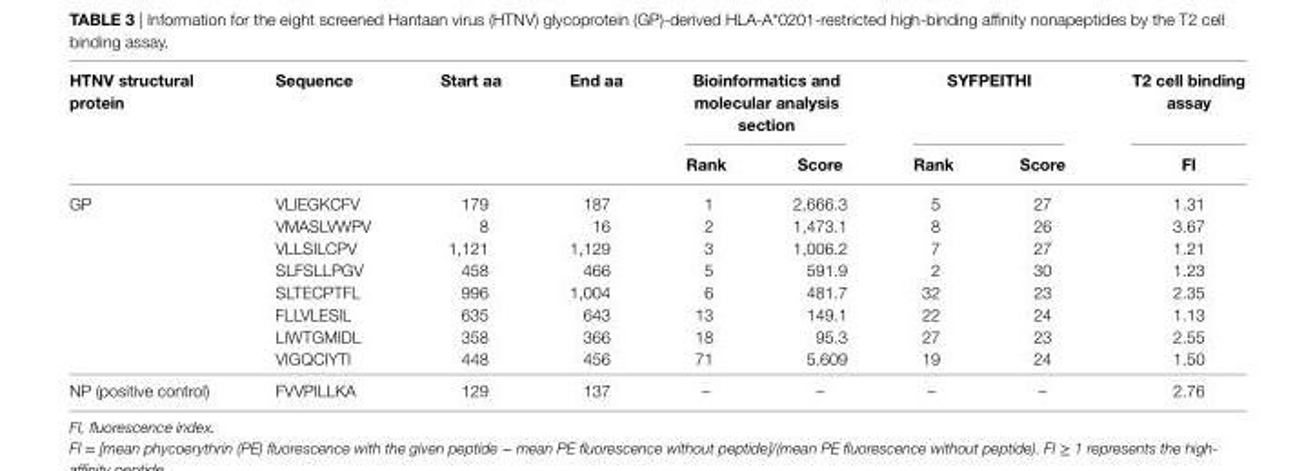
<table><thead><tr><td rowspan="2">hTnV structural protein</td><td rowspan="2">sequence</td><td rowspan="2">start aa</td><td rowspan="2">end aa</td><td colspan="2">bioinformatics and molecular analysis section</td><td colspan="2">sYFPeiThi</td><td rowspan="2">T2 cell binding assay Fi</td></tr><tr><td>rank</td><td>score</td><td>rank</td><td>score</td></tr></thead><tbody><tr><td rowspan="8">GP</td><td>VLIEGKCFV</td><td>179</td><td>187</td><td>1</td><td>2,666.3</td><td>5</td><td>27</td><td>1.31</td></tr><tr><td>VMASLVWPV</td><td>8</td><td>16</td><td>2</td><td>1,473.1</td><td>8</td><td>26</td><td>3.67</td></tr><tr><td>VLLSILCPV</td><td>1,121</td><td>1,129</td><td>3</td><td>1,006.2</td><td>7</td><td>27</td><td>1.21</td></tr><tr><td>SLFSLLPGV</td><td>458</td><td>466</td><td>5</td><td>591.9</td><td>2</td><td>30</td><td>1.23</td></tr><tr><td>SLTECPTFL</td><td>996</td><td>1,004</td><td>6</td><td>481.7</td><td>32</td><td>23</td><td>2.35</td></tr><tr><td>FLLVLESIL</td><td>635</td><td>643</td><td>13</td><td>149.1</td><td>22</td><td>24</td><td>1.13</td></tr><tr><td>LIWTGMIDL</td><td>358</td><td>366</td><td>18</td><td>95.3</td><td>27</td><td>23</td><td>2.55</td></tr><tr><td>VIGQCIYTI</td><td>448</td><td>456</td><td>71</td><td>5.609</td><td>19</td><td>24</td><td>1.50</td></tr><tr><td>NP (positive control)</td><td>FVVPILLKA</td><td>129</td><td>137</td><td>–</td><td>–</td><td>–</td><td>–</td><td>2.76</td></tr></tbody></table>